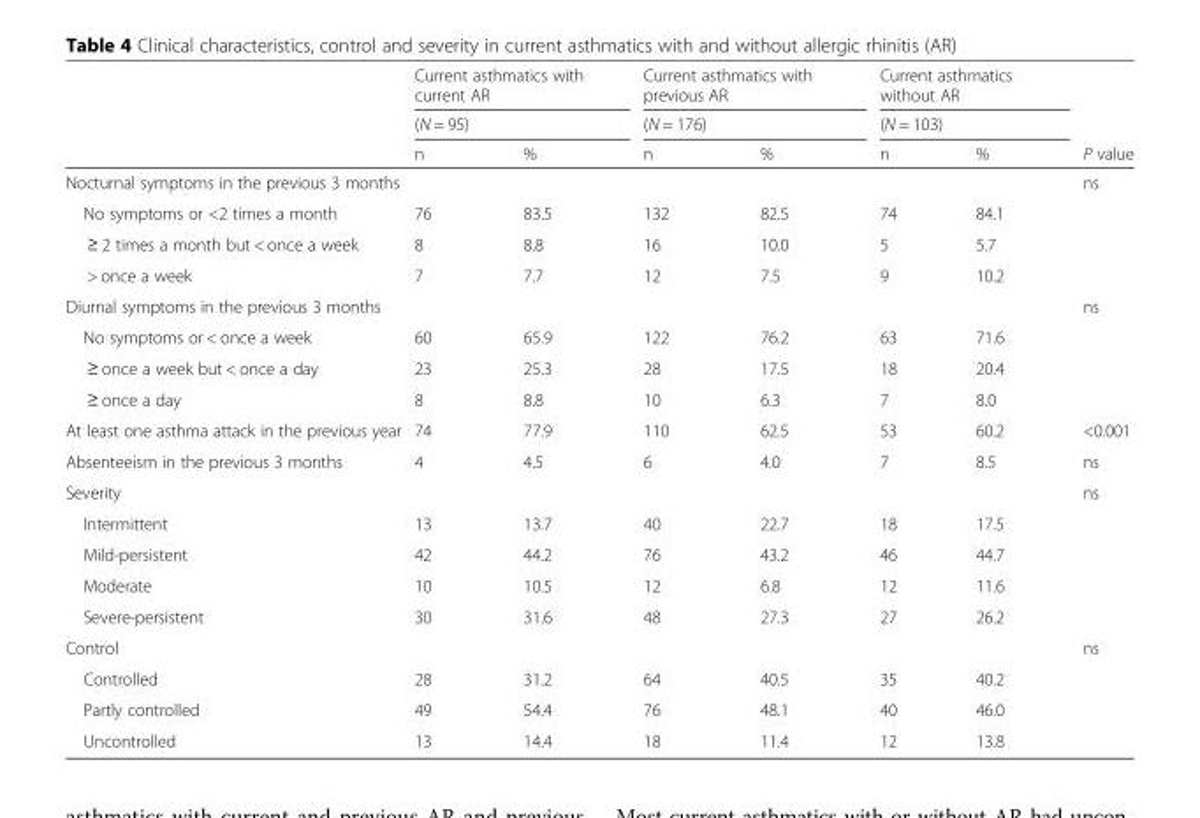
<table><thead><tr><td rowspan="3"></td><td rowspan="2" colspan="2">Current asthmatics with current AR (N = 95)</td><td rowspan="2" colspan="2">Current asthmatics with previous AR (N = 176)</td><td rowspan="2" colspan="2">Current asthmatics without AR (N = 103)</td><td rowspan="3">P value</td></tr><tr></tr><tr><td>n</td><td>%</td><td>n</td><td>%</td><td>n</td><td>%</td></tr></thead><tbody><tr><td>Nocturnal symptoms in the previous 3 months</td><td></td><td></td><td></td><td></td><td></td><td></td><td>ns</td></tr><tr><td>No symptoms or &lt;2 times a month</td><td>76</td><td>83.5</td><td>132</td><td>82.5</td><td>74</td><td>84.1</td><td></td></tr><tr><td>≥ 2 times a month but &lt; once a week</td><td>8</td><td>8.8</td><td>16</td><td>10.0</td><td>5</td><td>5.7</td><td></td></tr><tr><td>&gt; once a week</td><td>7</td><td>7.7</td><td>12</td><td>7.5</td><td>9</td><td>10.2</td><td></td></tr><tr><td>Diurnal symptoms in the previous 3 months</td><td></td><td></td><td></td><td></td><td></td><td></td><td>ns</td></tr><tr><td>No symptoms or &lt; once a week</td><td>60</td><td>65.9</td><td>122</td><td>76.2</td><td>63</td><td>71.6</td><td></td></tr><tr><td>≥ once a week but &lt; once a day</td><td>23</td><td>25.3</td><td>28</td><td>17.5</td><td>18</td><td>20.4</td><td></td></tr><tr><td>≥ once a day</td><td>8</td><td>8.8</td><td>10</td><td>6.3</td><td>7</td><td>8.0</td><td></td></tr><tr><td>At least one asthma attack in the previous year</td><td>74</td><td>77.9</td><td>110</td><td>62.5</td><td>53</td><td>60.2</td><td>&lt;0.001</td></tr><tr><td>Absenteeism in the previous 3 months</td><td>4</td><td>4.5</td><td>6</td><td>4.0</td><td>7</td><td>8.5</td><td>ns</td></tr><tr><td>Severity</td><td></td><td></td><td></td><td></td><td></td><td></td><td>ns</td></tr><tr><td>Intermittent</td><td>13</td><td>13.7</td><td>40</td><td>22.7</td><td>18</td><td>17.5</td><td></td></tr><tr><td>Mild-persistent</td><td>42</td><td>44.2</td><td>76</td><td>43.2</td><td>46</td><td>44.7</td><td></td></tr><tr><td>Moderate</td><td>10</td><td>10.5</td><td>12</td><td>6.8</td><td>12</td><td>11.6</td><td></td></tr><tr><td>Severe-persistent</td><td>30</td><td>31.6</td><td>48</td><td>27.3</td><td>27</td><td>26.2</td><td></td></tr><tr><td>Control</td><td></td><td></td><td></td><td></td><td></td><td></td><td>ns</td></tr><tr><td>Controlled</td><td>28</td><td>31.2</td><td>64</td><td>40.5</td><td>35</td><td>40.2</td><td></td></tr><tr><td>Partly controlled</td><td>49</td><td>54.4</td><td>76</td><td>48.1</td><td>40</td><td>46.0</td><td></td></tr><tr><td>Uncontrolled</td><td>13</td><td>14.4</td><td>18</td><td>11.4</td><td>12</td><td>13.8</td><td></td></tr></tbody></table>